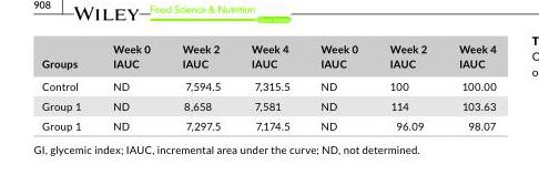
<table><thead><tr><td>Groups</td><td>Week 0 IAUC</td><td>Week 2 IAUC</td><td>Week 4 IAUC</td><td>Week 0 IAUC</td><td>Week 2 IAUC</td><td>Week 4 IAUC</td></tr></thead><tbody><tr><td>Control</td><td>ND</td><td>7,594.5</td><td>7,315.5</td><td>ND</td><td>100</td><td>100.00</td></tr><tr><td>Group 1</td><td>ND</td><td>8,658</td><td>7,581</td><td>ND</td><td>114</td><td>103.63</td></tr><tr><td>Group 1</td><td>ND</td><td>7,297.5</td><td>7,174.5</td><td>ND</td><td>96.09</td><td>98.07</td></tr></tbody></table>